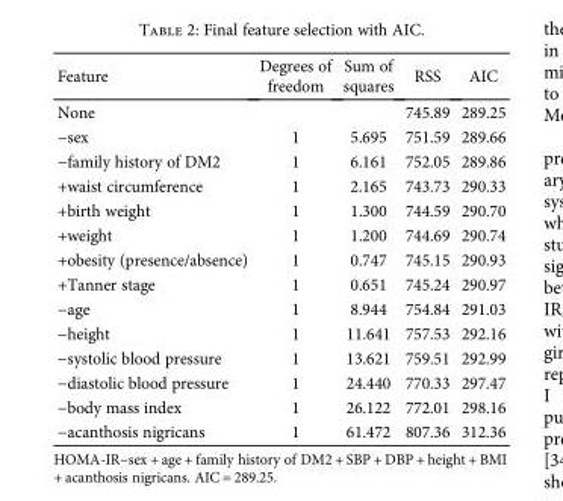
<table><thead><tr><td>Feature</td><td>Degrees of freedom</td><td>Sum of squares</td><td>RSS</td><td>AIC</td></tr></thead><tbody><tr><td>None</td><td></td><td></td><td>745.89</td><td>289.25</td></tr><tr><td>−sex</td><td>1</td><td>5.695</td><td>751.59</td><td>289.66</td></tr><tr><td>−family history of DM2</td><td>1</td><td>6.161</td><td>752.05</td><td>289.86</td></tr><tr><td>+waist circumference</td><td>1</td><td>2.165</td><td>743.73</td><td>290.33</td></tr><tr><td>+birth weight</td><td>1</td><td>1.300</td><td>744.59</td><td>290.70</td></tr><tr><td>+weight</td><td>1</td><td>1.200</td><td>744.69</td><td>290.74</td></tr><tr><td>+obesity (presence/absence)</td><td>1</td><td>0.747</td><td>745.15</td><td>290.93</td></tr><tr><td>+Tanner stage</td><td>1</td><td>0.651</td><td>745.24</td><td>290.97</td></tr><tr><td>−age</td><td>1</td><td>8.944</td><td>754.84</td><td>291.03</td></tr><tr><td>−height</td><td>1</td><td>11.641</td><td>757.53</td><td>292.16</td></tr><tr><td>−systolic blood pressure</td><td>1</td><td>13.621</td><td>759.51</td><td>292.99</td></tr><tr><td>−diastolic blood pressure</td><td>1</td><td>24.440</td><td>770.33</td><td>297.47</td></tr><tr><td>−body mass index</td><td>1</td><td>26.122</td><td>772.01</td><td>298.16</td></tr><tr><td>−acanthosis nigricans</td><td>1</td><td>61.472</td><td>807.36</td><td>312.36</td></tr></tbody></table>